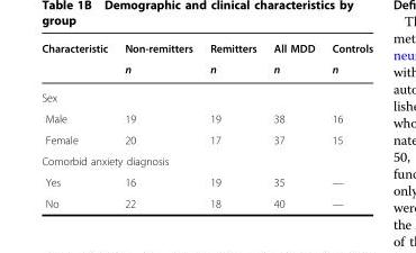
<table><thead><tr><td rowspan="2">Characteristic</td><td rowspan="2">Non-remitters n</td><td rowspan="2">Remitters n</td><td rowspan="2">All MDD n</td><td rowspan="2">Controls n</td></tr><tr></tr></thead><tbody><tr><td colspan="5">Sex</td></tr><tr><td>Male</td><td>19</td><td>19</td><td>38</td><td>16</td></tr><tr><td>Female</td><td>20</td><td>17</td><td>37</td><td>15</td></tr><tr><td colspan="5">Comorbid anxiety diagnosis</td></tr><tr><td>Yes</td><td>16</td><td>19</td><td>35</td><td>—</td></tr><tr><td>No</td><td>22</td><td>18</td><td>40</td><td>—</td></tr></tbody></table>